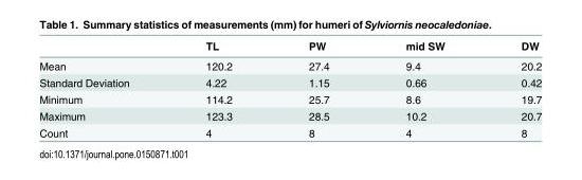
<table><thead><tr><td></td><td>TL</td><td>PW</td><td>mid SW</td><td>DW</td></tr></thead><tbody><tr><td>Mean</td><td>120.2</td><td>27.4</td><td>9.4</td><td>20.2</td></tr><tr><td>Standard Deviation</td><td>4.22</td><td>1.15</td><td>0.66</td><td>0.42</td></tr><tr><td>Minimum</td><td>114.2</td><td>25.7</td><td>8.6</td><td>19.7</td></tr><tr><td>Maximum</td><td>123.3</td><td>28.5</td><td>10.2</td><td>20.7</td></tr><tr><td>Count</td><td>4</td><td>8</td><td>4</td><td>8</td></tr></tbody></table>